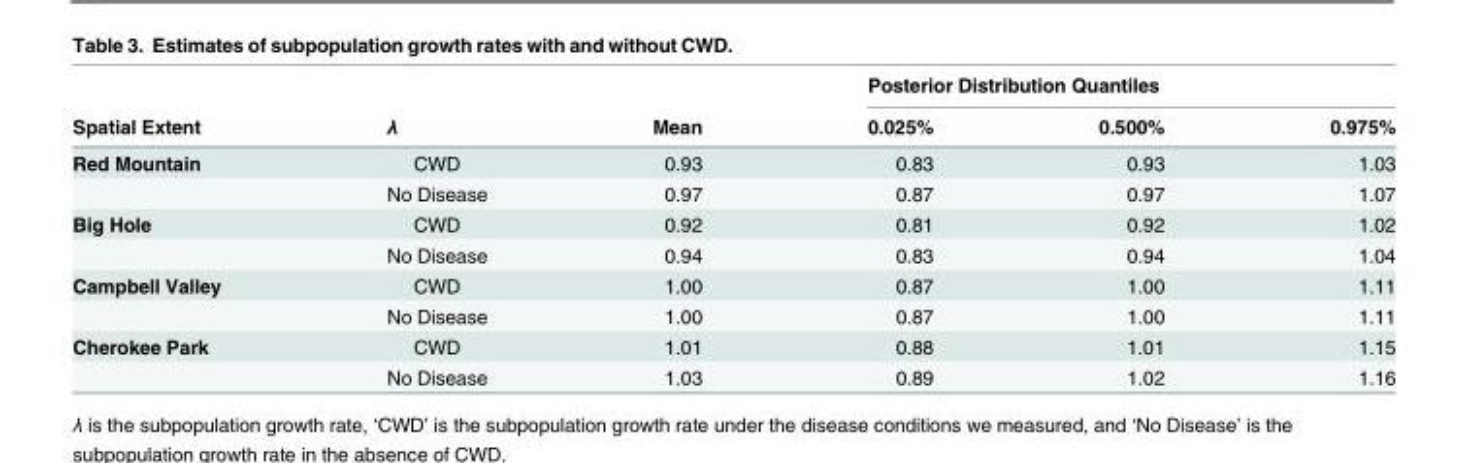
<table><thead><tr><td rowspan="2">Spatial Extent</td><td rowspan="2">λ</td><td rowspan="2">Mean</td><td colspan="3">Posterior Distribution Quantiles</td></tr><tr><td>0.025%</td><td>0.500%</td><td>0.975%</td></tr></thead><tbody><tr><td rowspan="2">Red Mountain</td><td>CWD</td><td>0.93</td><td>0.83</td><td>0.93</td><td>1.03</td></tr><tr><td>No Disease</td><td>0.97</td><td>0.87</td><td>0.97</td><td>1.07</td></tr><tr><td rowspan="2">Big Hole</td><td>CWD</td><td>0.92</td><td>0.81</td><td>0.92</td><td>1.02</td></tr><tr><td>No Disease</td><td>0.94</td><td>0.83</td><td>0.94</td><td>1.04</td></tr><tr><td rowspan="2">Campbell Valley</td><td>CWD</td><td>1.00</td><td>0.87</td><td>1.00</td><td>1.11</td></tr><tr><td>No Disease</td><td>1.00</td><td>0.87</td><td>1.00</td><td>1.11</td></tr><tr><td rowspan="2">Cherokee Park</td><td>CWD</td><td>1.01</td><td>0.88</td><td>1.01</td><td>1.15</td></tr><tr><td>No Disease</td><td>1.03</td><td>0.89</td><td>1.02</td><td>1.16</td></tr></tbody></table>